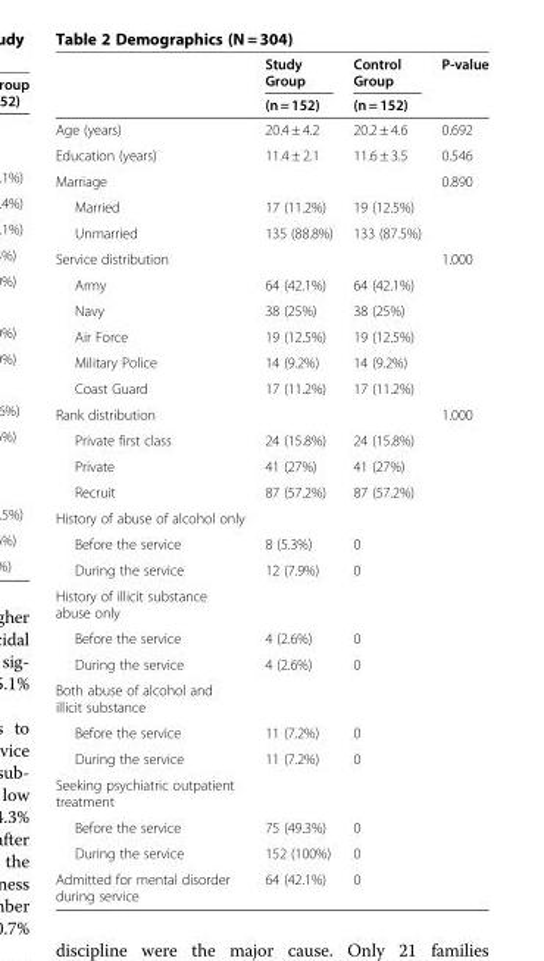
<table><thead><tr><td rowspan="2"></td><td rowspan="2">Study Group (n = 152)</td><td rowspan="2">Control Group (n = 152)</td><td rowspan="2">P-value</td></tr><tr></tr></thead><tbody><tr><td>Age (years)</td><td>20.4 ± 4.2</td><td>20.2 ± 4.6</td><td>0.692</td></tr><tr><td>Education (years)</td><td>11.4 ± 2.1</td><td>11.6 ± 3.5</td><td>0.546</td></tr><tr><td>Marriage</td><td></td><td></td><td>0.890</td></tr><tr><td>Married</td><td>17 (11.2%)</td><td>19 (12.5%)</td><td></td></tr><tr><td>Unmarried</td><td>135 (88.8%)</td><td>133 (87.5%)</td><td></td></tr><tr><td>Service distribution</td><td></td><td></td><td>1.000</td></tr><tr><td>Army</td><td>64 (42.1%)</td><td>64 (42.1%)</td><td></td></tr><tr><td>Navy</td><td>38 (25%)</td><td>38 (25%)</td><td></td></tr><tr><td>Air Force</td><td>19 (12.5%)</td><td>19 (12.5%)</td><td></td></tr><tr><td>Military Police</td><td>14 (9.2%)</td><td>14 (9.2%)</td><td></td></tr><tr><td>Coast Guard</td><td>17 (11.2%)</td><td>17 (11.2%)</td><td></td></tr><tr><td>Rank distribution</td><td></td><td></td><td>1.000</td></tr><tr><td>Private first class</td><td>24 (15.8%)</td><td>24 (15.8%)</td><td></td></tr><tr><td>Private</td><td>41 (27%)</td><td>41 (27%)</td><td></td></tr><tr><td>Recruit</td><td>87 (57.2%)</td><td>87 (57.2%)</td><td></td></tr><tr><td colspan="4">History of abuse of alcohol only</td></tr><tr><td>Before the service</td><td>8 (5.3%)</td><td>0</td><td></td></tr><tr><td>During the service</td><td>12 (7.9%)</td><td>0</td><td></td></tr><tr><td colspan="4">History of illicit substance abuse only</td></tr><tr><td>Before the service</td><td>4 (2.6%)</td><td>0</td><td></td></tr><tr><td>During the service</td><td>4 (2.6%)</td><td>0</td><td></td></tr><tr><td colspan="4">Both abuse of alcohol and illicit substance</td></tr><tr><td>Before the service</td><td>11 (7.2%)</td><td>0</td><td></td></tr><tr><td>During the service</td><td>11 (7.2%)</td><td>0</td><td></td></tr><tr><td colspan="4">Seeking psychiatric outpatient treatment</td></tr><tr><td>Before the service</td><td>75 (49.3%)</td><td>0</td><td></td></tr><tr><td>During the service</td><td>152 (100%)</td><td>0</td><td></td></tr><tr><td>Admitted for mental disorder during service</td><td>64 (42.1%)</td><td>0</td><td></td></tr></tbody></table>